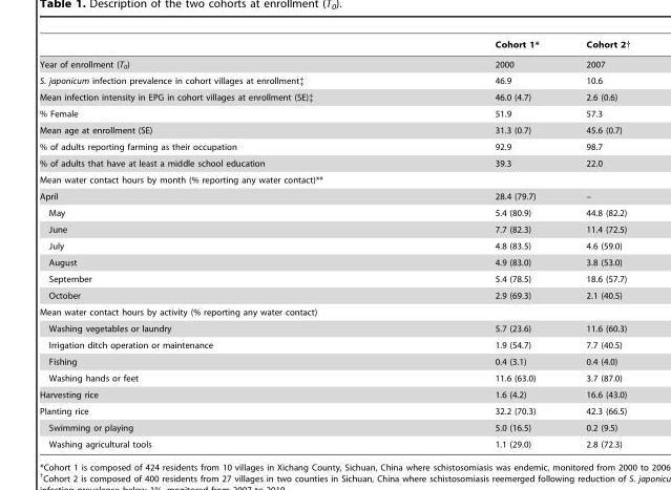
<table><thead><tr><td></td><td>Cohort 1*</td><td>Cohort 2†</td></tr></thead><tbody><tr><td>Year of enrollment (T<sub>0</sub>)</td><td>2000</td><td>2007</td></tr><tr><td>S. japonicum infection prevalence in cohort villages at enrollment‡</td><td>46.9</td><td>10.6</td></tr><tr><td>Mean infection intensity in EPG in cohort villages at enrollment (SE)‡</td><td>46.0 (4.7)</td><td>2.6 (0.6)</td></tr><tr><td>% Female</td><td>51.9</td><td>57.3</td></tr><tr><td>Mean age at enrollment (SE)</td><td>31.3 (0.7)</td><td>45.6 (0.7)</td></tr><tr><td>% of adults reporting farming as their occupation</td><td>92.9</td><td>98.7</td></tr><tr><td>% of adults that have at least a middle school education</td><td>39.3</td><td>22.0</td></tr><tr><td colspan="3">Mean water contact hours by month (% reporting any water contact)**</td></tr><tr><td>April</td><td>28.4 (79.7)</td><td>–</td></tr><tr><td>May</td><td>5.4 (80.9)</td><td>44.8 (82.2)</td></tr><tr><td>June</td><td>7.7 (82.3)</td><td>11.4 (72.5)</td></tr><tr><td>July</td><td>4.8 (83.5)</td><td>4.6 (59.0)</td></tr><tr><td>August</td><td>4.9 (83.0)</td><td>3.8 (53.0)</td></tr><tr><td>September</td><td>5.4 (78.5)</td><td>18.6 (57.7)</td></tr><tr><td>October</td><td>2.9 (69.3)</td><td>2.1 (40.5)</td></tr><tr><td colspan="3">Mean water contact hours by activity (% reporting any water contact)</td></tr><tr><td>Washing vegetables or laundry</td><td>5.7 (23.6)</td><td>11.6 (60.3)</td></tr><tr><td>Irrigation ditch operation or maintenance</td><td>1.9 (54.7)</td><td>7.7 (40.5)</td></tr><tr><td>Fishing</td><td>0.4 (3.1)</td><td>0.4 (4.0)</td></tr><tr><td>Washing hands or feet</td><td>11.6 (63.0)</td><td>3.7 (87.0)</td></tr><tr><td>Harvesting rice</td><td>1.6 (4.2)</td><td>16.6 (43.0)</td></tr><tr><td>Planting rice</td><td>32.2 (70.3)</td><td>42.3 (66.5)</td></tr><tr><td>Swimming or playing</td><td>5.0 (16.5)</td><td>0.2 (9.5)</td></tr><tr><td>Washing agricultural tools</td><td>1.1 (29.0)</td><td>2.8 (72.3)</td></tr></tbody></table>